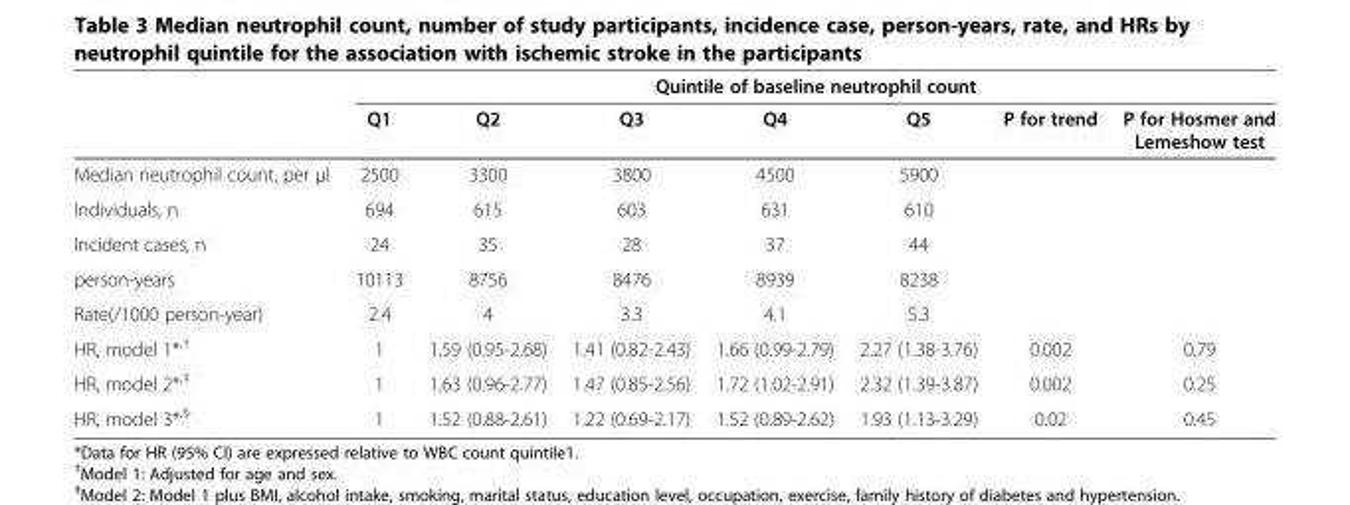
<table><thead><tr><td rowspan="2"></td><td colspan="7">Quintile of baseline neutrophil count</td></tr><tr><td>Q1</td><td>Q2</td><td>Q3</td><td>Q4</td><td>Q5</td><td>P for trend</td><td>P for Hosmer and Lemeshow test</td></tr></thead><tbody><tr><td>Median neutrophil count, per μl</td><td>2500</td><td>3300</td><td>3800</td><td>4500</td><td>5900</td><td></td><td></td></tr><tr><td>Individuals, n</td><td>694</td><td>615</td><td>603</td><td>631</td><td>610</td><td></td><td></td></tr><tr><td>Incident cases, n</td><td>24</td><td>35</td><td>28</td><td>37</td><td>44</td><td></td><td></td></tr><tr><td>person-years</td><td>10113</td><td>8756</td><td>8476</td><td>8939</td><td>8238</td><td></td><td></td></tr><tr><td>Rate(/1000 person-year)</td><td>2.4</td><td>4</td><td>3.3</td><td>4.1</td><td>5.3</td><td></td><td></td></tr><tr><td>HR, model 1*<sup>,†</sup></td><td>1</td><td>1.59 (0.95-2.68)</td><td>1.41 (0.82-2.43)</td><td>1.66 (0.99-2.79)</td><td>2.27 (1.38-3.76)</td><td>0.002</td><td>0.79</td></tr><tr><td>HR, model 2*<sup>,‡</sup></td><td>1</td><td>1.63 (0.96-2.77)</td><td>1.47 (0.85-2.56)</td><td>1.72 (1.02-2.91)</td><td>2.32 (1.39-3.87)</td><td>0.002</td><td>0.25</td></tr><tr><td>HR, model 3*<sup>,§</sup></td><td>1</td><td>1.52 (0.88-2.61)</td><td>1.22 (0.69-2.17)</td><td>1.52 (0.89-2.62)</td><td>1.93 (1.13-3.29)</td><td>0.02</td><td>0.45</td></tr></tbody></table>